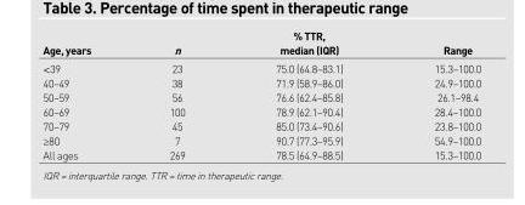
<table><thead><tr><td>Age, years</td><td>n</td><td>median (IQR)</td><td>Range</td></tr></thead><tbody><tr><td>&lt;39</td><td>23</td><td>75.0 (64.8–83.1)</td><td>15.3–100.0</td></tr><tr><td>40–49</td><td>38</td><td>71.9 (58.9–86.0)</td><td>24.9–100.0</td></tr><tr><td>50–59</td><td>56</td><td>76.6 (62.4–85.8)</td><td>26.1–98.4</td></tr><tr><td>60–69</td><td>100</td><td>78.9 (62.1–90.4)</td><td>28.4–100.0</td></tr><tr><td>70–79</td><td>45</td><td>85.0 (73.4–90.6)</td><td>23.8–100.0</td></tr><tr><td>≥80</td><td>7</td><td>90.7 (77.3–95.9)</td><td>54.9–100.0</td></tr><tr><td>All ages</td><td>269</td><td>78.5 (64.9–88.5)</td><td>15.3–100.0</td></tr></tbody></table>